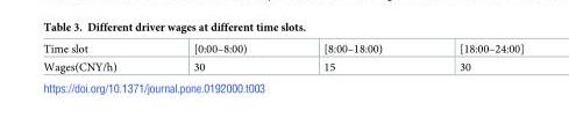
<table><tbody><tr><td>Time slot</td><td>[0:00–8:00)</td><td>[8:00–18:00)</td><td>[18:00–24:00]</td></tr><tr><td>Wages(CNY/h)</td><td>30</td><td>15</td><td>30</td></tr></tbody></table>